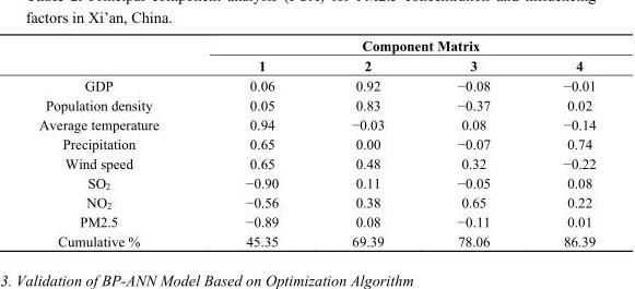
<table><thead><tr><td rowspan="2"></td><td colspan="4">Component Matrix</td></tr><tr><td>1</td><td>2</td><td>3</td><td>4</td></tr></thead><tbody><tr><td>GDP</td><td>0.06</td><td>0.92</td><td>−0.08</td><td>−0.01</td></tr><tr><td>Population density</td><td>0.05</td><td>0.83</td><td>−0.37</td><td>0.02</td></tr><tr><td>Average temperature</td><td>0.94</td><td>−0.03</td><td>0.08</td><td>−0.14</td></tr><tr><td>Precipitation</td><td>0.65</td><td>0.00</td><td>−0.07</td><td>0.74</td></tr><tr><td>Wind speed</td><td>0.65</td><td>0.48</td><td>0.32</td><td>−0.22</td></tr><tr><td>SO<sub>2</sub></td><td>−0.90</td><td>0.11</td><td>−0.05</td><td>0.08</td></tr><tr><td>NO<sub>2</sub></td><td>−0.56</td><td>0.38</td><td>0.65</td><td>0.22</td></tr><tr><td>PM2.5</td><td>−0.89</td><td>0.08</td><td>−0.11</td><td>0.01</td></tr><tr><td>Cumulative %</td><td>45.35</td><td>69.39</td><td>78.06</td><td>86.39</td></tr></tbody></table>